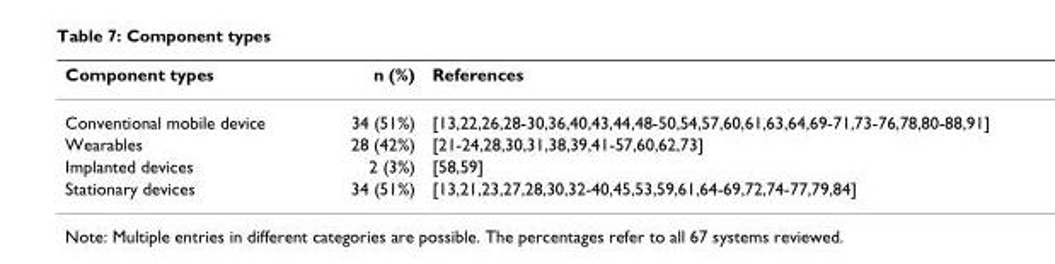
<table><thead><tr><td>Component types</td><td>n (%)</td><td>References</td></tr></thead><tbody><tr><td>Conventional mobile device</td><td>34 (51%)</td><td>[13,22,26,28-30,36,40,43,44,48-50,54,57,60,61,63,64,69-71,73-76,78,80-88,91]</td></tr><tr><td>Wearables</td><td>28 (42%)</td><td>[21-24,28,30,31,38,39,41-57,60,62,73]</td></tr><tr><td>Implanted devices</td><td>2 (3%)</td><td>[58,59]</td></tr><tr><td>Stationary devices</td><td>34 (51%)</td><td>[13,21,23,27,28,30,32-40,45,53,59,61,64-69,72,74-77,79,84]</td></tr></tbody></table>